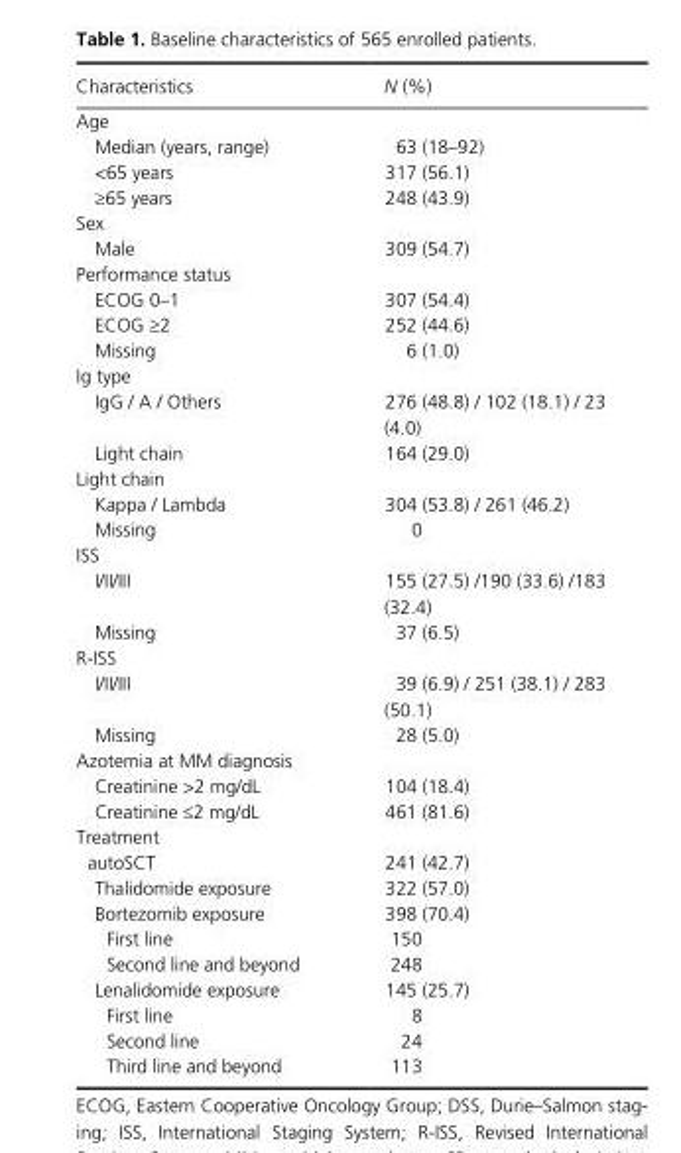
<table><thead><tr><td>Characteristics</td><td>N (%)</td></tr></thead><tbody><tr><td colspan="2">Age</td></tr><tr><td>Median (years, range)</td><td>63 (18–92)</td></tr><tr><td>&lt;65 years</td><td>317 (56.1)</td></tr><tr><td>≥65 years</td><td>248 (43.9)</td></tr><tr><td colspan="2">Sex</td></tr><tr><td>Male</td><td>309 (54.7)</td></tr><tr><td colspan="2">Performance status</td></tr><tr><td>ECOG 0–1</td><td>307 (54.4)</td></tr><tr><td>ECOG ≥2</td><td>252 (44.6)</td></tr><tr><td>Missing</td><td>6 (1.0)</td></tr><tr><td colspan="2">Ig type</td></tr><tr><td>IgG / A / Others</td><td>276 (48.8) / 102 (18.1) / 23 (4.0)</td></tr><tr><td>Light chain</td><td>164 (29.0)</td></tr><tr><td colspan="2">Light chain</td></tr><tr><td>Kappa / Lambda</td><td>304 (53.8) / 261 (46.2)</td></tr><tr><td>Missing</td><td>0</td></tr><tr><td colspan="2">ISS</td></tr><tr><td>I/II/III</td><td>155 (27.5) /190 (33.6) /183 (32.4)</td></tr><tr><td>Missing</td><td>37 (6.5)</td></tr><tr><td colspan="2">R- ISS</td></tr><tr><td>I/II/III</td><td>39 (6.9) / 251 (38.1) / 283 (50.1)</td></tr><tr><td>Missing</td><td>28 (5.0)</td></tr><tr><td colspan="2">Azotemia at MM diagnosis</td></tr><tr><td>Creatinine &gt;2 mg/dL</td><td>104 (18.4)</td></tr><tr><td>Creatinine ≤2 mg/dL</td><td>461 (81.6)</td></tr><tr><td colspan="2">Treatment</td></tr><tr><td>autoSCT</td><td>241 (42.7)</td></tr><tr><td>Thalidomide exposure</td><td>322 (57.0)</td></tr><tr><td>Bortezomib exposure</td><td>398 (70.4)</td></tr><tr><td>First line</td><td>150</td></tr><tr><td>Second line and beyond</td><td>248</td></tr><tr><td>Lenalidomide exposure</td><td>145 (25.7)</td></tr><tr><td>First line</td><td>8</td></tr><tr><td>Second line</td><td>24</td></tr><tr><td>Third line and beyond</td><td>113</td></tr></tbody></table>